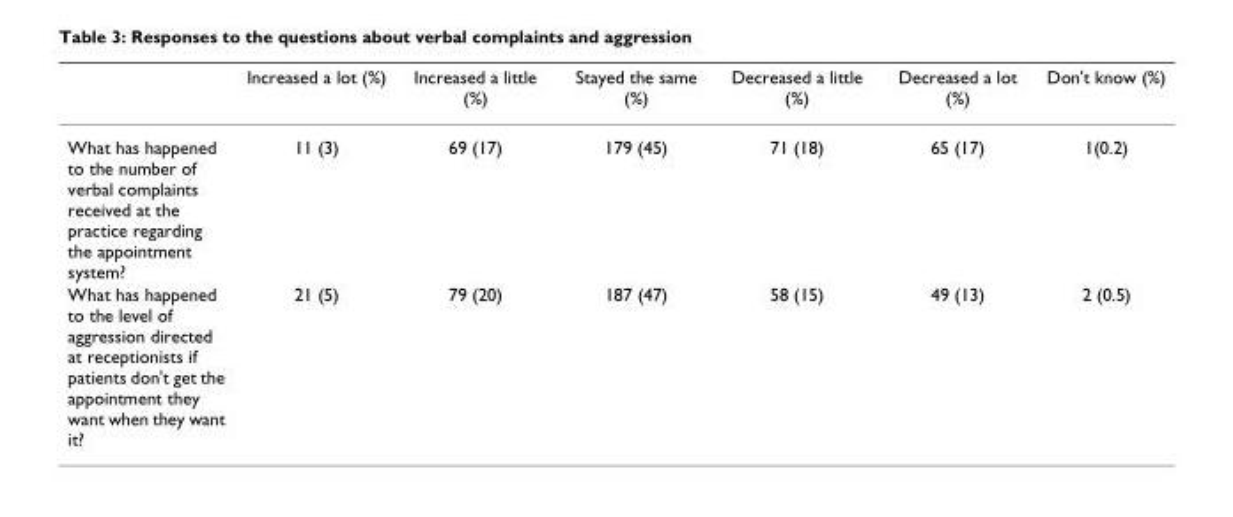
<table><thead><tr><td></td><td>Increased a lot (%)</td><td>Increased a little (%)</td><td>Stayed the same (%)</td><td>Decreased a little (%)</td><td>Decreased a lot (%)</td><td>Don&#x27;t know (%)</td></tr></thead><tbody><tr><td>What has happened to the number of verbal complaints received at the practice regarding the appointment system?</td><td>11 (3)</td><td>69 (17)</td><td>179 (45)</td><td>71 (18)</td><td>65 (17)</td><td>1(0.2)</td></tr><tr><td>What has happened to the level of aggression directed at receptionists if patients don&#x27;t get the appointment they want when they want it?</td><td>21 (5)</td><td>79 (20)</td><td>187 (47)</td><td>58 (15)</td><td>49 (13)</td><td>2 (0.5)</td></tr></tbody></table>